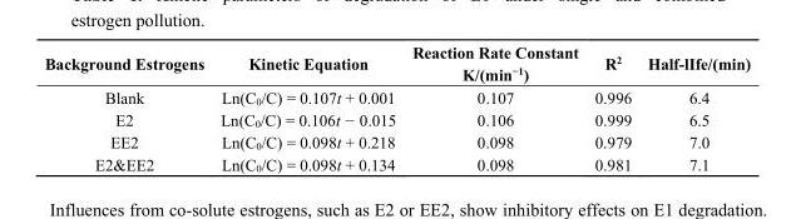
<table><thead><tr><td>Background Estrogens</td><td>Kinetic Equation</td><td>Reaction Rate Constant K/(min<sup>−1</sup>)</td><td>R<sup>2</sup></td><td>Half-lIfe/(min)</td></tr></thead><tbody><tr><td>Blank</td><td>Ln(C<sub>0</sub>/C) = 0.107t + 0.001</td><td>0.107</td><td>0.996</td><td>6.4</td></tr><tr><td>E2</td><td>Ln(C<sub>0</sub>/C) = 0.106t − 0.015</td><td>0.106</td><td>0.999</td><td>6.5</td></tr><tr><td>EE2</td><td>Ln(C<sub>0</sub>/C) = 0.098t + 0.218</td><td>0.098</td><td>0.979</td><td>7.0</td></tr><tr><td>E2&amp;EE2</td><td>Ln(C<sub>0</sub>/C) = 0.098t + 0.134</td><td>0.098</td><td>0.981</td><td>7.1</td></tr></tbody></table>